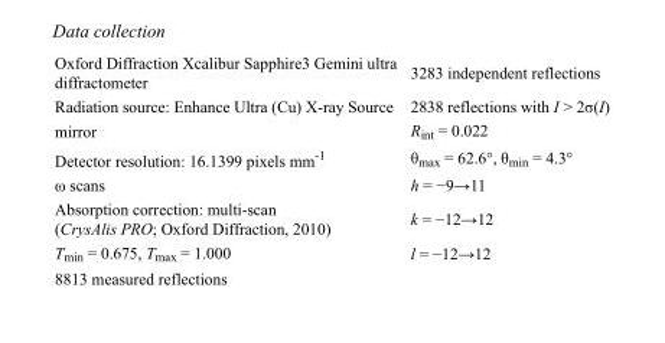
<table><tbody><tr><td>Oxford Diffraction Xcalibur Sapphire3 Gemini ultra diffractometer</td><td>3283 independent reflections</td></tr><tr><td>Radiation source: Enhance Ultra (Cu) X-ray Source</td><td>2838 reflections with I &gt; 2σ(I)</td></tr><tr><td>mirror</td><td>R<sub>int</sub> = 0.022</td></tr><tr><td>Detector resolution: 16.1399 pixels mm<sup>-1</sup></td><td>θ<sub>max</sub> = 62.6°, θ<sub>min</sub> = 4.3°</td></tr><tr><td>ω scans</td><td>h = −9→11</td></tr><tr><td>Absorption correction: multi-scan (CrysAlis PRO; Oxford Diffraction, 2010)</td><td>k = −12→12</td></tr><tr><td>T<sub>min</sub> = 0.675, T<sub>max</sub> = 1.000</td><td>l = −12→12</td></tr><tr><td>8813 measured reflections</td><td></td></tr></tbody></table>